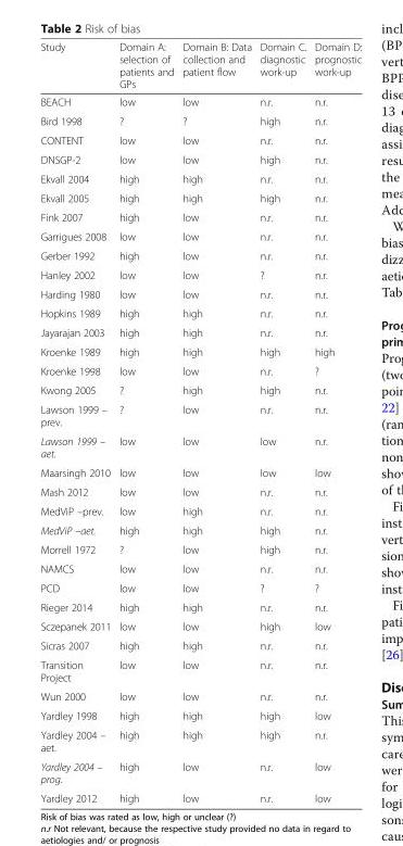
<table><thead><tr><td>Study</td><td>Domain A: selection of patients and GPs</td><td>Domain B: Data collection and patient flow</td><td>Domain C. diagnostic work-up</td><td>Domain D: prognostic work-up</td></tr></thead><tbody><tr><td>BEACH</td><td>low</td><td>low</td><td>n.r.</td><td>n.r.</td></tr><tr><td>Bird 1998</td><td>?</td><td>?</td><td>high</td><td>n.r.</td></tr><tr><td>CONTENT</td><td>low</td><td>low</td><td>n.r.</td><td>n.r.</td></tr><tr><td>DNSGP-2</td><td>low</td><td>low</td><td>high</td><td>n.r.</td></tr><tr><td>Ekvall 2004</td><td>high</td><td>high</td><td>n.r.</td><td>n.r.</td></tr><tr><td>Ekvall 2005</td><td>high</td><td>high</td><td>high</td><td>n.r.</td></tr><tr><td>Fink 2007</td><td>high</td><td>low</td><td>n.r.</td><td>n.r.</td></tr><tr><td>Garrigues 2008</td><td>low</td><td>low</td><td>n.r.</td><td>n.r.</td></tr><tr><td>Gerber 1992</td><td>high</td><td>low</td><td>n.r.</td><td>n.r.</td></tr><tr><td>Hanley 2002</td><td>low</td><td>low</td><td>?</td><td>n.r.</td></tr><tr><td>Harding 1980</td><td>low</td><td>low</td><td>n.r.</td><td>n.r.</td></tr><tr><td>Hopkins 1989</td><td>high</td><td>high</td><td>n.r.</td><td>n.r.</td></tr><tr><td>Jayarajan 2003</td><td>high</td><td>high</td><td>n.r.</td><td>n.r.</td></tr><tr><td>Kroenke 1989</td><td>high</td><td>high</td><td>high</td><td>high</td></tr><tr><td>Kroenke 1998</td><td>low</td><td>low</td><td>n.r.</td><td>?</td></tr><tr><td>Kwong 2005</td><td>?</td><td>high</td><td>high</td><td>n.r.</td></tr><tr><td>Lawson 1999 – prev.</td><td>?</td><td>low</td><td>n.r.</td><td>n.r.</td></tr><tr><td>Lawson 1999 – aet.</td><td>low</td><td>low</td><td>low</td><td>n.r.</td></tr><tr><td>Maarsingh 2010</td><td>low</td><td>low</td><td>low</td><td>low</td></tr><tr><td>Mash 2012</td><td>low</td><td>low</td><td>n.r.</td><td>n.r.</td></tr><tr><td>MedViP –prev.</td><td>low</td><td>high</td><td>n.r.</td><td>n.r.</td></tr><tr><td>MedViP –aet.</td><td>high</td><td>high</td><td>high</td><td>n.r.</td></tr><tr><td>Morrell 1972</td><td>?</td><td>low</td><td>high</td><td>n.r.</td></tr><tr><td>NAMCS</td><td>low</td><td>low</td><td>n.r.</td><td>n.r.</td></tr><tr><td>PCD</td><td>low</td><td>low</td><td>?</td><td>?</td></tr><tr><td>Rieger 2014</td><td>high</td><td>high</td><td>n.r.</td><td>n.r.</td></tr><tr><td>Sczepanek 2011</td><td>low</td><td>low</td><td>high</td><td>low</td></tr><tr><td>Sicras 2007</td><td>high</td><td>high</td><td>n.r.</td><td>n.r.</td></tr><tr><td>Transition Project</td><td>low</td><td>low</td><td>n.r.</td><td>n.r.</td></tr><tr><td>Wun 2000</td><td>low</td><td>low</td><td>n.r.</td><td>n.r.</td></tr><tr><td>Yardley 1998</td><td>high</td><td>high</td><td>high</td><td>low</td></tr><tr><td>Yardley 2004 – aet.</td><td>high</td><td>high</td><td>high</td><td>n.r.</td></tr><tr><td>Yardley 2004 – prog.</td><td>high</td><td>low</td><td>n.r.</td><td>low</td></tr><tr><td>Yardley 2012</td><td>high</td><td>low</td><td>n.r.</td><td>low</td></tr></tbody></table>